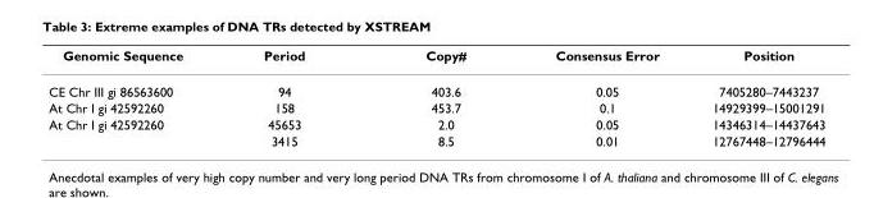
<table><thead><tr><td>Genomic Sequence</td><td>Period</td><td>Copy#</td><td>Consensus Error</td><td>Position</td></tr></thead><tbody><tr><td>CE Chr III gi 86563600</td><td>94</td><td>403.6</td><td>0.05</td><td>7405280–7443237</td></tr><tr><td>At Chr I gi 42592260</td><td>158</td><td>453.7</td><td>0.1</td><td>14929399–15001291</td></tr><tr><td rowspan="2">At Chr I gi 42592260</td><td>45653</td><td>2.0</td><td>0.05</td><td>14346314–14437643</td></tr><tr><td>3415</td><td>8.5</td><td>0.01</td><td>12767448–12796444</td></tr></tbody></table>